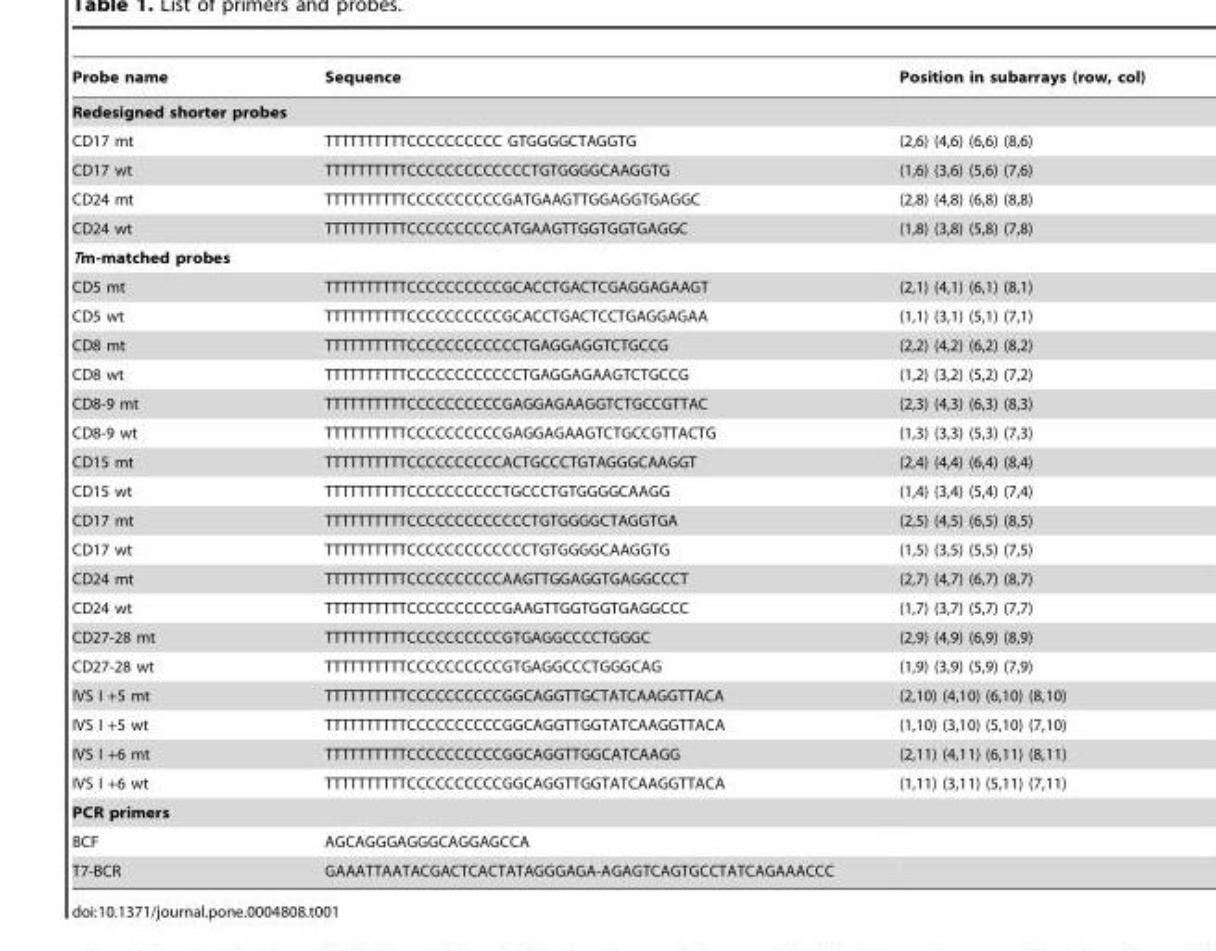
<table><thead><tr><td>Probe name</td><td>Sequence</td><td>Position in subarrays (row, col)</td></tr></thead><tbody><tr><td colspan="3">Redesigned shorter probes</td></tr><tr><td>CD17 mt</td><td>TTTTTTTTTTCCCCCCCCCC GTGGGGCTAGGTG</td><td>(2,6) (4,6) (6,6) (8,6)</td></tr><tr><td>CD17 wt</td><td>TTTTTTTTTTCCCCCCCCCCCCCTGTGGGGCAAGGTG</td><td>(1,6) (3,6) (5,6) (7,6)</td></tr><tr><td>CD24 mt</td><td>TTTTTTTTTTCCCCCCCCCCGATGAAGTTGGAGGTGAGGC</td><td>(2,8) (4,8) (6,8) (8,8)</td></tr><tr><td>CD24 wt</td><td>TTTTTTTTTTCCCCCCCCCCATGAAGTTGGTGGTGAGGC</td><td>(1,8) (3,8) (5,8) (7,8)</td></tr><tr><td colspan="3">Tm-matched probes</td></tr><tr><td>CD5 mt</td><td>TTTTTTTTTTCCCCCCCCCCGCACCTGACTCGAGGAGAAGT</td><td>(2,1) (4,1) (6,1) (8,1)</td></tr><tr><td>CD5 wt</td><td>TTTTTTTTTTCCCCCCCCCCGCACCTGACTCCTGAGGAGAA</td><td>(1,1) (3,1) (5,1) (7,1)</td></tr><tr><td>CD8 mt</td><td>TTTTTTTTTTCCCCCCCCCCCCTGAGGAGGTCTGCCG</td><td>(2,2) (4,2) (6,2) (8,2)</td></tr><tr><td>CD8 wt</td><td>TTTTTTTTTTCCCCCCCCCCCCTGAGGAGAAGTCTGCCG</td><td>(1,2) (3,2) (5,2) (7,2)</td></tr><tr><td>CD8-9 mt</td><td>TTTTTTTTTTCCCCCCCCCCGAGGAGAAGGTCTGCCGTTAC</td><td>(2,3) (4,3) (6,3) (8,3)</td></tr><tr><td>CD8-9 wt</td><td>TTTTTTTTTTCCCCCCCCCCGAGGAGAAGTCTGCCGTTACTG</td><td>(1,3) (3,3) (5,3) (7,3)</td></tr><tr><td>CD15 mt</td><td>TTTTTTTTTTCCCCCCCCCCACTGCCCTGTAGGGCAAGGT</td><td>(2,4) (4,4) (6,4) (8,4)</td></tr><tr><td>CD15 wt</td><td>TTTTTTTTTTCCCCCCCCCCTGCCCTGTGGGGCAAGG</td><td>(1,4) (3,4) (5,4) (7,4)</td></tr><tr><td>CD17 mt</td><td>TTTTTTTTTTCCCCCCCCCCCCCTGTGGGGCTAGGTGA</td><td>(2,5) (4,5) (6,5) (8,5)</td></tr><tr><td>CD17 wt</td><td>TTTTTTTTTTCCCCCCCCCCCCCTGTGGGGCAAGGTG</td><td>(1,5) (3,5) (5,5) (7,5)</td></tr><tr><td>CD24 mt</td><td>TTTTTTTTTTCCCCCCCCCCAAGTTGGAGGTGAGGCCCT</td><td>(2,7) (4,7) (6,7) (8,7)</td></tr><tr><td>CD24 wt</td><td>TTTTTTTTTTCCCCCCCCCCGAAGTTGGTGGTGAGGCCC</td><td>(1,7) (3,7) (5,7) (7,7)</td></tr><tr><td>CD27-28 mt</td><td>TTTTTTTTTTCCCCCCCCCCGTGAGGCCCCTGGGC</td><td>(2,9) (4,9) (6,9) (8,9)</td></tr><tr><td>CD27-28 wt</td><td>TTTTTTTTTTCCCCCCCCCCGTGAGGCCCTGGGCAG</td><td>(1,9) (3,9) (5,9) (7,9)</td></tr><tr><td>IVS I +5 mt</td><td>TTTTTTTTTTCCCCCCCCCCGGCAGGTTGCTATCAAGGTTACA</td><td>(2,10) (4,10) (6,10) (8,10)</td></tr><tr><td>IVS I +5 wt</td><td>TTTTTTTTTTCCCCCCCCCCGGCAGGTTGGTATCAAGGTTACA</td><td>(1,10) (3,10) (5,10) (7,10)</td></tr><tr><td>IVS I +6 mt</td><td>TTTTTTTTTTCCCCCCCCCCGGCAGGTTGGCATCAAGG</td><td>(2,11) (4,11) (6,11) (8,11)</td></tr><tr><td>IVS I +6 wt</td><td>TTTTTTTTTTCCCCCCCCCCGGCAGGTTGGTATCAAGGTTACA</td><td>(1,11) (3,11) (5,11) (7,11)</td></tr><tr><td colspan="3">PCR primers</td></tr><tr><td>BCF</td><td>AGCAGGGAGGGCAGGAGCCA</td><td></td></tr><tr><td>T7-BCR</td><td>GAAATTAATACGACTCACTATAGGGAGA-AGAGTCAGTGCCTATCAGAAACCC</td><td></td></tr></tbody></table>